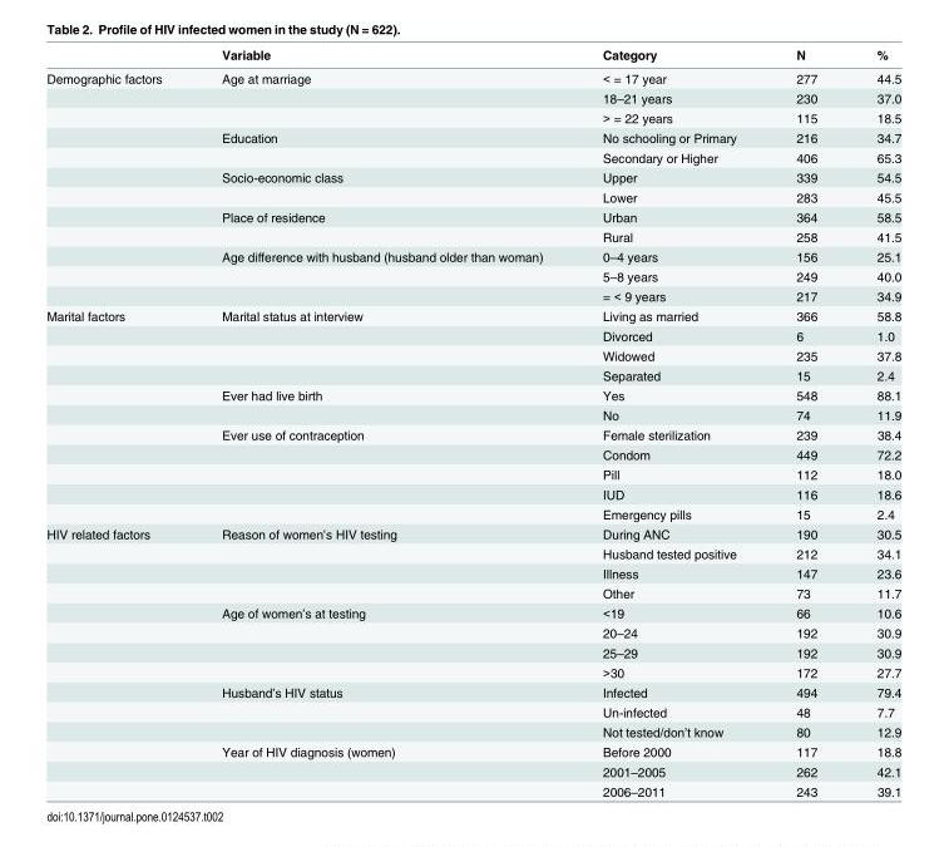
<table><thead><tr><td></td><td>Variable</td><td>Category</td><td>N</td><td>%</td></tr></thead><tbody><tr><td rowspan="12">Demographic factors</td><td>Age at marriage</td><td>&lt; = 17 year</td><td>277</td><td>44.5</td></tr><tr><td></td><td>18–21 years</td><td>230</td><td>37.0</td></tr><tr><td></td><td>&gt; = 22 years</td><td>115</td><td>18.5</td></tr><tr><td>Education</td><td>No schooling or Primary</td><td>216</td><td>34.7</td></tr><tr><td></td><td>Secondary or Higher</td><td>406</td><td>65.3</td></tr><tr><td>Socio-economic class</td><td>Upper</td><td>339</td><td>54.5</td></tr><tr><td></td><td>Lower</td><td>283</td><td>45.5</td></tr><tr><td>Place of residence</td><td>Urban</td><td>364</td><td>58.5</td></tr><tr><td></td><td>Rural</td><td>258</td><td>41.5</td></tr><tr><td>Age difference with husband (husband older than woman)</td><td>0–4 years</td><td>156</td><td>25.1</td></tr><tr><td></td><td>5–8 years</td><td>249</td><td>40.0</td></tr><tr><td></td><td>= &lt; 9 years</td><td>217</td><td>34.9</td></tr><tr><td rowspan="11">Marital factors</td><td>Marital status at interview</td><td>Living as married</td><td>366</td><td>58.8</td></tr><tr><td></td><td>Divorced</td><td>6</td><td>1.0</td></tr><tr><td></td><td>Widowed</td><td>235</td><td>37.8</td></tr><tr><td></td><td>Separated</td><td>15</td><td>2.4</td></tr><tr><td>Ever had live birth</td><td>Yes</td><td>548</td><td>88.1</td></tr><tr><td></td><td>No</td><td>74</td><td>11.9</td></tr><tr><td>Ever use of contraception</td><td>Female sterilization</td><td>239</td><td>38.4</td></tr><tr><td></td><td>Condom</td><td>449</td><td>72.2</td></tr><tr><td></td><td>Pill</td><td>112</td><td>18.0</td></tr><tr><td></td><td>IUD</td><td>116</td><td>18.6</td></tr><tr><td></td><td>Emergency pills</td><td>15</td><td>2.4</td></tr><tr><td rowspan="14">HIV related factors</td><td>Reason of women’s HIV testing</td><td>During ANC</td><td>190</td><td>30.5</td></tr><tr><td></td><td>Husband tested positive</td><td>212</td><td>34.1</td></tr><tr><td></td><td>Illness</td><td>147</td><td>23.6</td></tr><tr><td></td><td>Other</td><td>73</td><td>11.7</td></tr><tr><td>Age of women’s at testing</td><td>&lt;19</td><td>66</td><td>10.6</td></tr><tr><td></td><td>20–24</td><td>192</td><td>30.9</td></tr><tr><td></td><td>25–29</td><td>192</td><td>30.9</td></tr><tr><td></td><td>&gt;30</td><td>172</td><td>27.7</td></tr><tr><td>Husband’s HIV status</td><td>Infected</td><td>494</td><td>79.4</td></tr><tr><td></td><td>Un-infected</td><td>48</td><td>7.7</td></tr><tr><td></td><td>Not tested/don’t know</td><td>80</td><td>12.9</td></tr><tr><td>Year of HIV diagnosis (women)</td><td>Before 2000</td><td>117</td><td>18.8</td></tr><tr><td></td><td>2001–2005</td><td>262</td><td>42.1</td></tr><tr><td></td><td>2006–2011</td><td>243</td><td>39.1</td></tr></tbody></table>